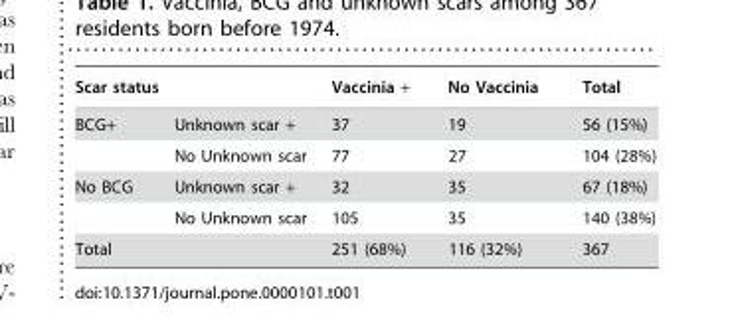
<table><thead><tr><td colspan="2">Scar status</td><td rowspan="2">Vaccinia + 37</td><td rowspan="2">No Vaccinia 19</td><td rowspan="2">Total 56 (15%)</td></tr><tr><td>BCG+</td><td>Unknown scar +</td></tr></thead><tbody><tr><td></td><td>No Unknown scar</td><td>77</td><td>27</td><td>104 (28%)</td></tr><tr><td rowspan="2">No BCG</td><td>Unknown scar +</td><td>32</td><td>35</td><td>67 (18%)</td></tr><tr><td>No Unknown scar</td><td>105</td><td>35</td><td>140 (38%)</td></tr><tr><td>Total</td><td></td><td>251 (68%)</td><td>116 (32%)</td><td>367</td></tr></tbody></table>